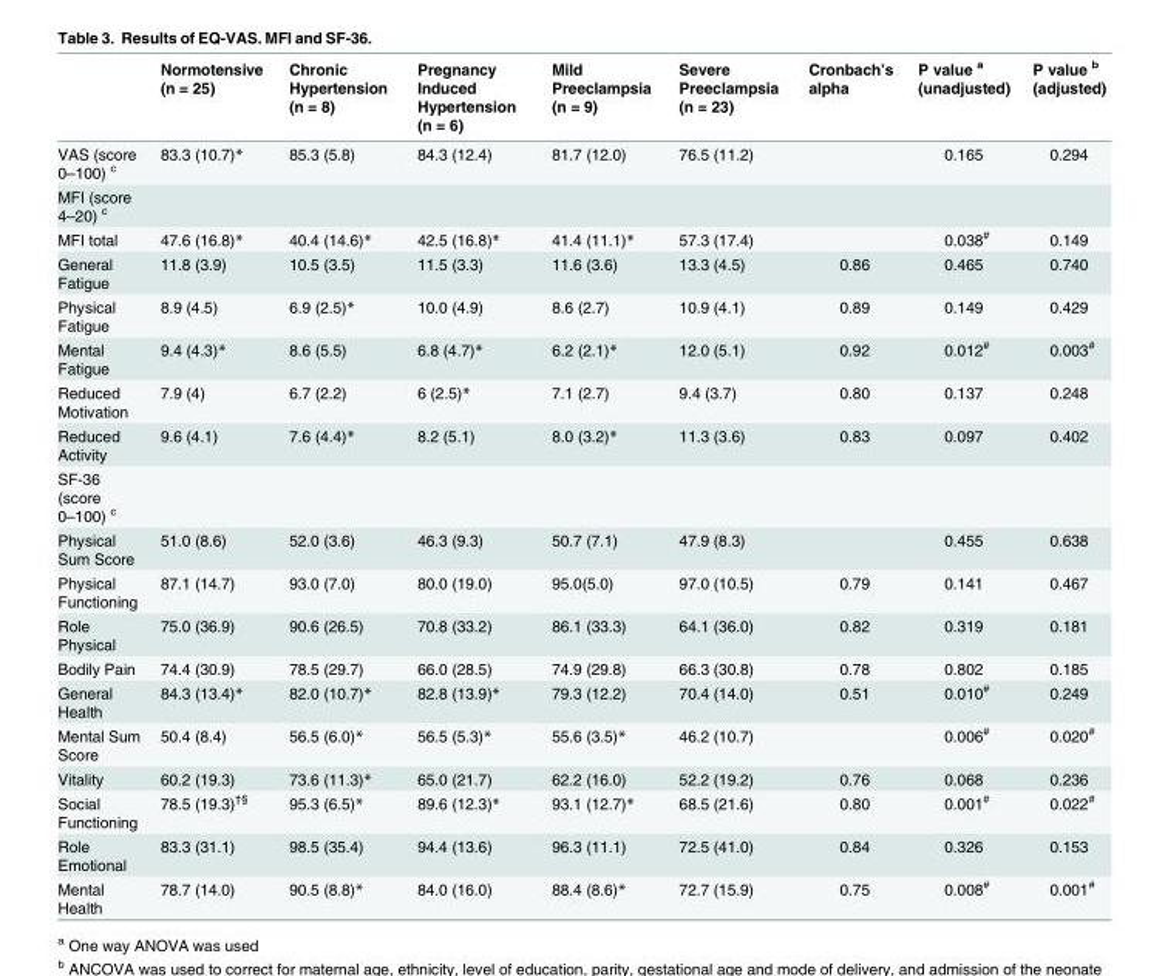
<table><thead><tr><td></td><td>Normotensive (n = 25)</td><td>Chronic Hypertension (n = 8)</td><td>Pregnancy Induced Hypertension (n = 6)</td><td>Mild Preeclampsia (n = 9)</td><td>Severe Preeclampsia (n = 23)</td><td>Cronbach’s alpha</td><td>P value <sup>a</sup> (unadjusted)</td><td>P value <sup>b</sup> (adjusted)</td></tr></thead><tbody><tr><td>VAS (score 0–100) <sup>c</sup></td><td>83.3 (10.7)*</td><td>85.3 (5.8)</td><td>84.3 (12.4)</td><td>81.7 (12.0)</td><td>76.5 (11.2)</td><td></td><td>0.165</td><td>0.294</td></tr><tr><td colspan="9">MFI (score 4–20) <sup>c</sup></td></tr><tr><td>MFI total</td><td>47.6 (16.8)*</td><td>40.4 (14.6)*</td><td>42.5 (16.8)*</td><td>41.4 (11.1)*</td><td>57.3 (17.4)</td><td></td><td>0.038<sup>#</sup></td><td>0.149</td></tr><tr><td>General Fatigue</td><td>11.8 (3.9)</td><td>10.5 (3.5)</td><td>11.5 (3.3)</td><td>11.6 (3.6)</td><td>13.3 (4.5)</td><td>0.86</td><td>0.465</td><td>0.740</td></tr><tr><td>Physical Fatigue</td><td>8.9 (4.5)</td><td>6.9 (2.5)*</td><td>10.0 (4.9)</td><td>8.6 (2.7)</td><td>10.9 (4.1)</td><td>0.89</td><td>0.149</td><td>0.429</td></tr><tr><td>Mental Fatigue</td><td>9.4 (4.3)*</td><td>8.6 (5.5)</td><td>6.8 (4.7)*</td><td>6.2 (2.1)*</td><td>12.0 (5.1)</td><td>0.92</td><td>0.012<sup>#</sup></td><td>0.003<sup>#</sup></td></tr><tr><td>Reduced Motivation</td><td>7.9 (4)</td><td>6.7 (2.2)</td><td>6 (2.5)*</td><td>7.1 (2.7)</td><td>9.4 (3.7)</td><td>0.80</td><td>0.137</td><td>0.248</td></tr><tr><td>Reduced Activity</td><td>9.6 (4.1)</td><td>7.6 (4.4)*</td><td>8.2 (5.1)</td><td>8.0 (3.2)*</td><td>11.3 (3.6)</td><td>0.83</td><td>0.097</td><td>0.402</td></tr><tr><td colspan="9">SF-36 (score 0–100) <sup>c</sup></td></tr><tr><td>Physical Sum Score</td><td>51.0 (8.6)</td><td>52.0 (3.6)</td><td>46.3 (9.3)</td><td>50.7 (7.1)</td><td>47.9 (8.3)</td><td></td><td>0.455</td><td>0.638</td></tr><tr><td>Physical Functioning</td><td>87.1 (14.7)</td><td>93.0 (7.0)</td><td>80.0 (19.0)</td><td>95.0(5.0)</td><td>97.0 (10.5)</td><td>0.79</td><td>0.141</td><td>0.467</td></tr><tr><td>Role Physical</td><td>75.0 (36.9)</td><td>90.6 (26.5)</td><td>70.8 (33.2)</td><td>86.1 (33.3)</td><td>64.1 (36.0)</td><td>0.82</td><td>0.319</td><td>0.181</td></tr><tr><td>Bodily Pain</td><td>74.4 (30.9)</td><td>78.5 (29.7)</td><td>66.0 (28.5)</td><td>74.9 (29.8)</td><td>66.3 (30.8)</td><td>0.78</td><td>0.802</td><td>0.185</td></tr><tr><td>General Health</td><td>84.3 (13.4)*</td><td>82.0 (10.7)*</td><td>82.8 (13.9)*</td><td>79.3 (12.2)</td><td>70.4 (14.0)</td><td>0.51</td><td>0.010<sup>#</sup></td><td>0.249</td></tr><tr><td>Mental Sum Score</td><td>50.4 (8.4)</td><td>56.5 (6.0)*</td><td>56.5 (5.3)*</td><td>55.6 (3.5)*</td><td>46.2 (10.7)</td><td></td><td>0.006<sup>#</sup></td><td>0.020<sup>#</sup></td></tr><tr><td>Vitality</td><td>60.2 (19.3)</td><td>73.6 (11.3)*</td><td>65.0 (21.7)</td><td>62.2 (16.0)</td><td>52.2 (19.2)</td><td>0.76</td><td>0.068</td><td>0.236</td></tr><tr><td>Social Functioning</td><td>78.5 (19.3)<sup>†§</sup></td><td>95.3 (6.5)*</td><td>89.6 (12.3)*</td><td>93.1 (12.7)*</td><td>68.5 (21.6)</td><td>0.80</td><td>0.001<sup>#</sup></td><td>0.022<sup>#</sup></td></tr><tr><td>Role Emotional</td><td>83.3 (31.1)</td><td>98.5 (35.4)</td><td>94.4 (13.6)</td><td>96.3 (11.1)</td><td>72.5 (41.0)</td><td>0.84</td><td>0.326</td><td>0.153</td></tr><tr><td>Mental Health</td><td>78.7 (14.0)</td><td>90.5 (8.8)*</td><td>84.0 (16.0)</td><td>88.4 (8.6)*</td><td>72.7 (15.9)</td><td>0.75</td><td>0.008<sup>#</sup></td><td>0.001<sup>#</sup></td></tr></tbody></table>